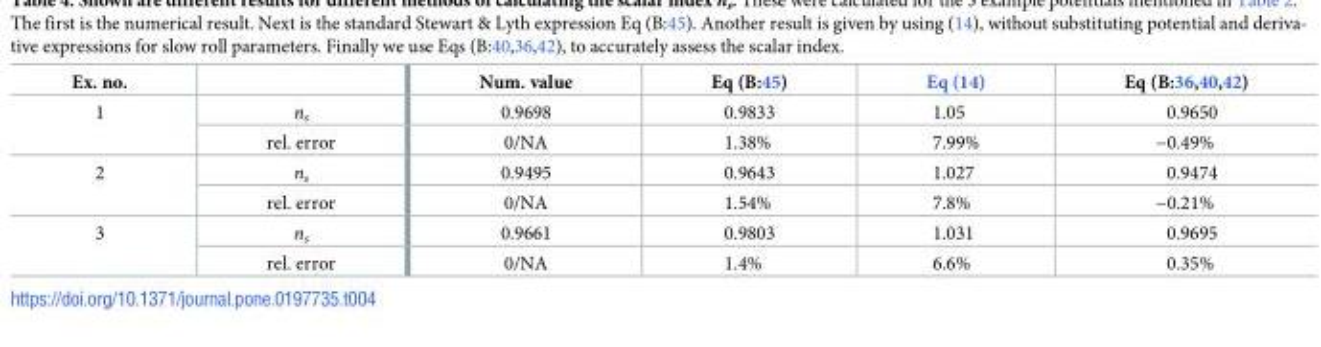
<table><thead><tr><td>Ex. no.</td><td></td><td>Num. value</td><td>Eq (B:45)</td><td>Eq (14)</td><td>Eq (B:36,40,42)</td></tr></thead><tbody><tr><td rowspan="2">1</td><td>n<sub>s</sub></td><td>0.9698</td><td>0.9833</td><td>1.05</td><td>0.9650</td></tr><tr><td>rel. error</td><td>0/NA</td><td>1.38%</td><td>7.99%</td><td>−0.49%</td></tr><tr><td rowspan="2">2</td><td>n<sub>s</sub></td><td>0.9495</td><td>0.9643</td><td>1.027</td><td>0.9474</td></tr><tr><td>rel. error</td><td>0/NA</td><td>1.54%</td><td>7.8%</td><td>−0.21%</td></tr><tr><td rowspan="2">3</td><td>n<sub>s</sub></td><td>0.9661</td><td>0.9803</td><td>1.031</td><td>0.9695</td></tr><tr><td>rel. error</td><td>0/NA</td><td>1.4%</td><td>6.6%</td><td>0.35%</td></tr></tbody></table>